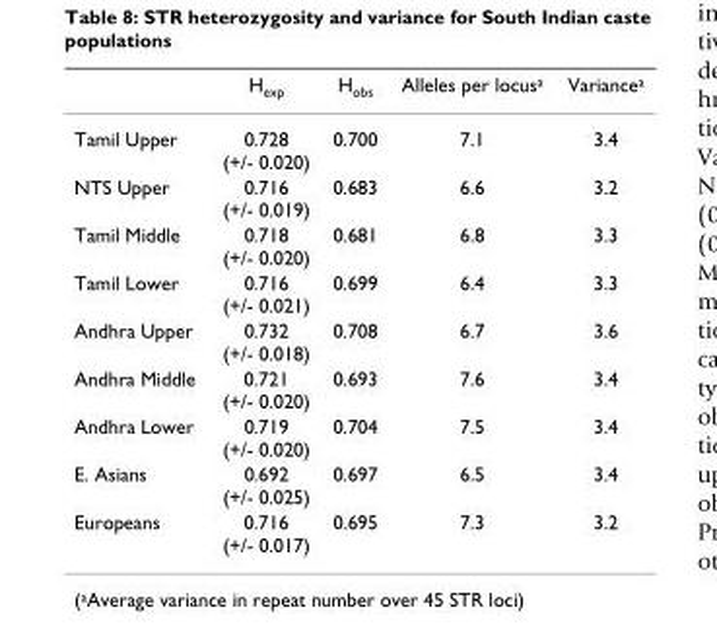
<table><thead><tr><td></td><td>H<sub>exp</sub></td><td>H<sub>obs</sub></td><td>Alleles per locus<sup>a</sup></td><td>Variance<sup>a</sup></td></tr></thead><tbody><tr><td>Tamil Upper</td><td>0.728 (+/- 0.020)</td><td>0.700</td><td>7.1</td><td>3.4</td></tr><tr><td>NTS Upper</td><td>0.716 (+/- 0.019)</td><td>0.683</td><td>6.6</td><td>3.2</td></tr><tr><td>Tamil Middle</td><td>0.718 (+/- 0.020)</td><td>0.681</td><td>6.8</td><td>3.3</td></tr><tr><td>Tamil Lower</td><td>0.716 (+/- 0.021)</td><td>0.699</td><td>6.4</td><td>3.3</td></tr><tr><td>Andhra Upper</td><td>0.732 (+/- 0.018)</td><td>0.708</td><td>6.7</td><td>3.6</td></tr><tr><td>Andhra Middle</td><td>0.721 (+/- 0.020)</td><td>0.693</td><td>7.6</td><td>3.4</td></tr><tr><td>Andhra Lower</td><td>0.719 (+/- 0.020)</td><td>0.704</td><td>7.5</td><td>3.4</td></tr><tr><td>E. Asians</td><td>0.692 (+/- 0.025)</td><td>0.697</td><td>6.5</td><td>3.4</td></tr><tr><td>Europeans</td><td>0.716 (+/- 0.017)</td><td>0.695</td><td>7.3</td><td>3.2</td></tr></tbody></table>